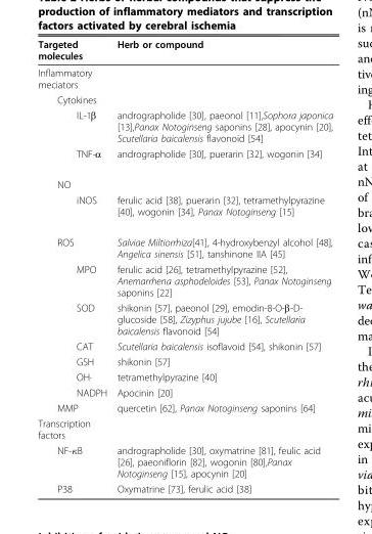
<table><tbody><tr><td>Targeted molecules</td><td>Herb or compound</td></tr><tr><td colspan="2">Inflammatory meciators</td></tr><tr><td colspan="2">Cytokines</td></tr><tr><td>IL-1β</td><td>andrographolide [30], paeonol [11],Sophora japonica [13],Panax Notoginseng saponins [28], apocynin [20], Scutellaria baicalensis flavonoid [54]</td></tr><tr><td>TNF-α</td><td>andrographolide [30], puerarin [32], wogonin [34]</td></tr><tr><td colspan="2">NO</td></tr><tr><td>iNOS</td><td>ferulic acid [38], puerarin [32], tetramethylpyrazine [40], wogonin [34], Panax Notoginseng [15]</td></tr><tr><td>ROS</td><td>Salviae Miltiorrhiza[41], 4-hydroxybenzyl alcohol [48], Angelica sinensis [51], tanshinone IIA [45]</td></tr><tr><td>MPO</td><td>ferulic acid [26], tetramethylpyrazine [52], Anemarrhena asphodeloides [53], Panax Notoginseng saponins [22]</td></tr><tr><td>SOD</td><td>shikonin [57], paeonol [29], emodin-8-O-β-D- glucoside [58], Zizyphus jujube [16], Scutellaria baicalensis flavonoid [54]</td></tr><tr><td>CAT</td><td>Scutellaria baicalensis isoflavoid [54], shikonin [57]</td></tr><tr><td>GSH</td><td>shikonin [57]</td></tr><tr><td>OH·</td><td>tetramethylpyrazine [40]</td></tr><tr><td>NADPH</td><td>Apocinin [20]</td></tr><tr><td>MMP</td><td>quercetin [62], Panax Notoginseng saponins [64]</td></tr><tr><td colspan="2">Transcription factors</td></tr><tr><td>NF-κB</td><td>andrographolide [30], oxymatrine [81], feulic acid [26], paeoniflorin [82], wogonin [80],Panax Notoginseng [15], apocynin [20]</td></tr><tr><td>P38</td><td>Oxymatrine [73], ferulic acid [38]</td></tr></tbody></table>